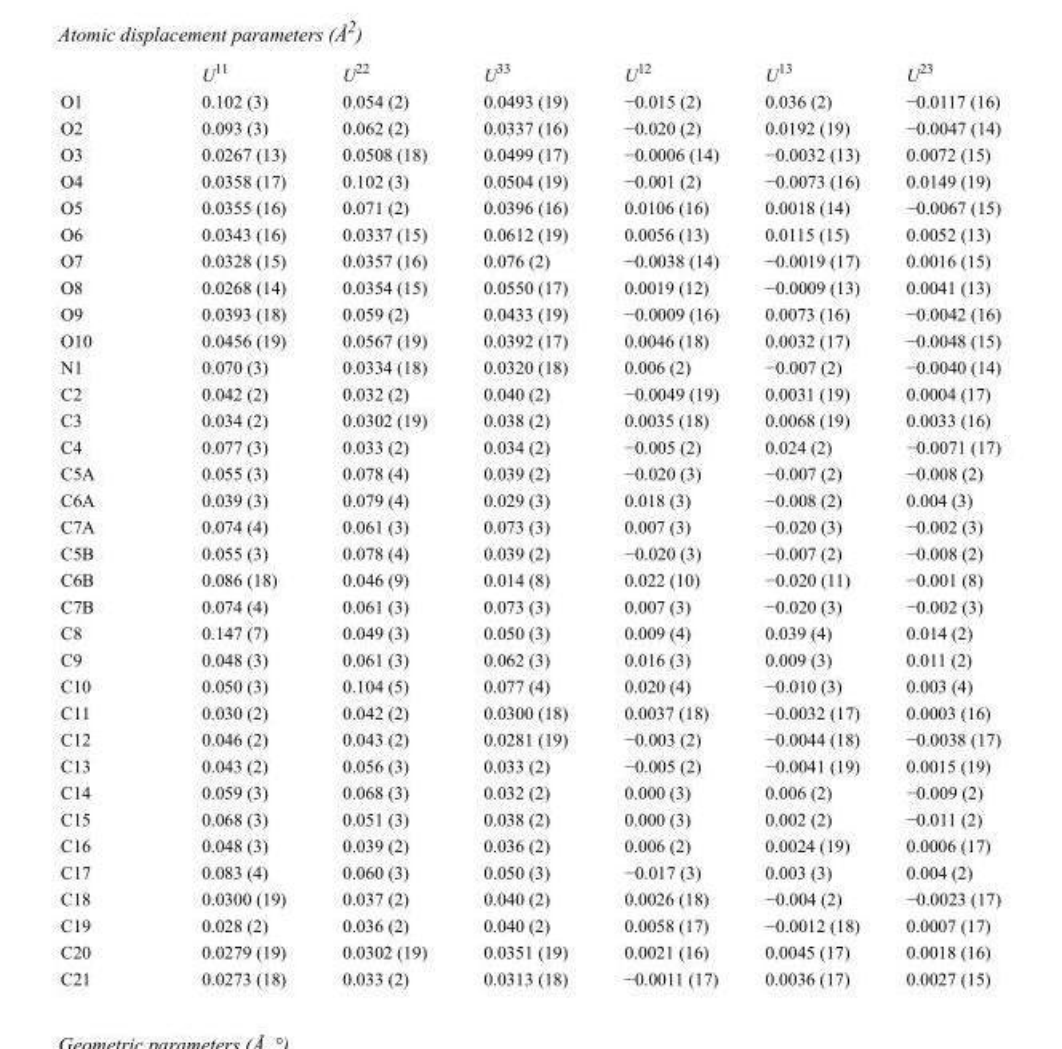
<table><thead><tr><td></td><td>U<sup>11</sup></td><td>U<sup>22</sup></td><td>U<sup>33</sup></td><td>U<sup>12</sup></td><td>U<sup>13</sup></td><td>U<sup>23</sup></td></tr></thead><tbody><tr><td>O1</td><td>0.102 (3)</td><td>0.054 (2)</td><td>0.0493 (19)</td><td>−0.015 (2)</td><td>0.036 (2)</td><td>−0.0117 (16)</td></tr><tr><td>O2</td><td>0.093 (3)</td><td>0.062 (2)</td><td>0.0337 (16)</td><td>−0.020 (2)</td><td>0.0192 (19)</td><td>−0.0047 (14)</td></tr><tr><td>O3</td><td>0.0267 (13)</td><td>0.0508 (18)</td><td>0.0499 (17)</td><td>−0.0006 (14)</td><td>−0.0032 (13)</td><td>0.0072 (15)</td></tr><tr><td>O4</td><td>0.0358 (17)</td><td>0.102 (3)</td><td>0.0504 (19)</td><td>−0.001 (2)</td><td>−0.0073 (16)</td><td>0.0149 (19)</td></tr><tr><td>O5</td><td>0.0355 (16)</td><td>0.071 (2)</td><td>0.0396 (16)</td><td>0.0106 (16)</td><td>0.0018 (14)</td><td>−0.0067 (15)</td></tr><tr><td>O6</td><td>0.0343 (16)</td><td>0.0337 (15)</td><td>0.0612 (19)</td><td>0.0056 (13)</td><td>0.0115 (15)</td><td>0.0052 (13)</td></tr><tr><td>O7</td><td>0.0328 (15)</td><td>0.0357 (16)</td><td>0.076 (2)</td><td>−0.0038 (14)</td><td>−0.0019 (17)</td><td>0.0016 (15)</td></tr><tr><td>O8</td><td>0.0268 (14)</td><td>0.0354 (15)</td><td>0.0550 (17)</td><td>0.0019 (12)</td><td>−0.0009 (13)</td><td>0.0041 (13)</td></tr><tr><td>O9</td><td>0.0393 (18)</td><td>0.059 (2)</td><td>0.0433 (19)</td><td>−0.0009 (16)</td><td>0.0073 (16)</td><td>−0.0042 (16)</td></tr><tr><td>O10</td><td>0.0456 (19)</td><td>0.0567 (19)</td><td>0.0392 (17)</td><td>0.0046 (18)</td><td>0.0032 (17)</td><td>−0.0048 (15)</td></tr><tr><td>N1</td><td>0.070 (3)</td><td>0.0334 (18)</td><td>0.0320 (18)</td><td>0.006 (2)</td><td>−0.007 (2)</td><td>−0.0040 (14)</td></tr><tr><td>C2</td><td>0.042 (2)</td><td>0.032 (2)</td><td>0.040 (2)</td><td>−0.0049 (19)</td><td>0.0031 (19)</td><td>0.0004 (17)</td></tr><tr><td>C3</td><td>0.034 (2)</td><td>0.0302 (19)</td><td>0.038 (2)</td><td>0.0035 (18)</td><td>0.0068 (19)</td><td>0.0033 (16)</td></tr><tr><td>C4</td><td>0.077 (3)</td><td>0.033 (2)</td><td>0.034 (2)</td><td>−0.005 (2)</td><td>0.024 (2)</td><td>−0.0071 (17)</td></tr><tr><td>C5A</td><td>0.055 (3)</td><td>0.078 (4)</td><td>0.039 (2)</td><td>−0.020 (3)</td><td>−0.007 (2)</td><td>−0.008 (2)</td></tr><tr><td>C6A</td><td>0.039 (3)</td><td>0.079 (4)</td><td>0.029 (3)</td><td>0.018 (3)</td><td>−0.008 (2)</td><td>0.004 (3)</td></tr><tr><td>C7A</td><td>0.074 (4)</td><td>0.061 (3)</td><td>0.073 (3)</td><td>0.007 (3)</td><td>−0.020 (3)</td><td>−0.002 (3)</td></tr><tr><td>C5B</td><td>0.055 (3)</td><td>0.078 (4)</td><td>0.039 (2)</td><td>−0.020 (3)</td><td>−0.007 (2)</td><td>−0.008 (2)</td></tr><tr><td>C6B</td><td>0.086 (18)</td><td>0.046 (9)</td><td>0.014 (8)</td><td>0.022 (10)</td><td>−0.020 (11)</td><td>−0.001 (8)</td></tr><tr><td>C7B</td><td>0.074 (4)</td><td>0.061 (3)</td><td>0.073 (3)</td><td>0.007 (3)</td><td>−0.020 (3)</td><td>−0.002 (3)</td></tr><tr><td>C8</td><td>0.147 (7)</td><td>0.049 (3)</td><td>0.050 (3)</td><td>0.009 (4)</td><td>0.039 (4)</td><td>0.014 (2)</td></tr><tr><td>C9</td><td>0.048 (3)</td><td>0.061 (3)</td><td>0.062 (3)</td><td>0.016 (3)</td><td>0.009 (3)</td><td>0.011 (2)</td></tr><tr><td>C10</td><td>0.050 (3)</td><td>0.104 (5)</td><td>0.077 (4)</td><td>0.020 (4)</td><td>−0.010 (3)</td><td>0.003 (4)</td></tr><tr><td>C11</td><td>0.030 (2)</td><td>0.042 (2)</td><td>0.0300 (18)</td><td>0.0037 (18)</td><td>−0.0032 (17)</td><td>0.0003 (16)</td></tr><tr><td>C12</td><td>0.046 (2)</td><td>0.043 (2)</td><td>0.0281 (19)</td><td>−0.003 (2)</td><td>−0.0044 (18)</td><td>−0.0038 (17)</td></tr><tr><td>C13</td><td>0.043 (2)</td><td>0.056 (3)</td><td>0.033 (2)</td><td>−0.005 (2)</td><td>−0.0041 (19)</td><td>0.0015 (19)</td></tr><tr><td>C14</td><td>0.059 (3)</td><td>0.068 (3)</td><td>0.032 (2)</td><td>0.000 (3)</td><td>0.006 (2)</td><td>−0.009 (2)</td></tr><tr><td>C15</td><td>0.068 (3)</td><td>0.051 (3)</td><td>0.038 (2)</td><td>0.000 (3)</td><td>0.002 (2)</td><td>−0.011 (2)</td></tr><tr><td>C16</td><td>0.048 (3)</td><td>0.039 (2)</td><td>0.036 (2)</td><td>0.006 (2)</td><td>0.0024 (19)</td><td>0.0006 (17)</td></tr><tr><td>C17</td><td>0.083 (4)</td><td>0.060 (3)</td><td>0.050 (3)</td><td>−0.017 (3)</td><td>0.003 (3)</td><td>0.004 (2)</td></tr><tr><td>C18</td><td>0.0300 (19)</td><td>0.037 (2)</td><td>0.040 (2)</td><td>0.0026 (18)</td><td>−0.004 (2)</td><td>−0.0023 (17)</td></tr><tr><td>C19</td><td>0.028 (2)</td><td>0.036 (2)</td><td>0.040 (2)</td><td>0.0058 (17)</td><td>−0.0012 (18)</td><td>0.0007 (17)</td></tr><tr><td>C20</td><td>0.0279 (19)</td><td>0.0302 (19)</td><td>0.0351 (19)</td><td>0.0021 (16)</td><td>0.0045 (17)</td><td>0.0018 (16)</td></tr><tr><td>C21</td><td>0.0273 (18)</td><td>0.033 (2)</td><td>0.0313 (18)</td><td>−0.0011 (17)</td><td>0.0036 (17)</td><td>0.0027 (15)</td></tr></tbody></table>